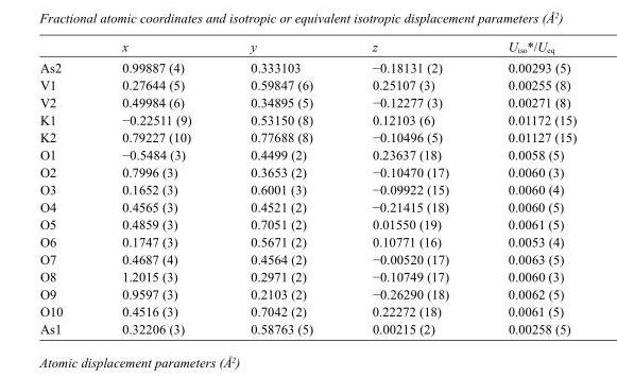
<table><thead><tr><td></td><td>x</td><td>y</td><td>z</td><td>U<sub>iso</sub>*/U<sub>eq</sub></td></tr></thead><tbody><tr><td>As2</td><td>0.99887 (4)</td><td>0.333103</td><td>−0.18131 (2)</td><td>0.00293 (5)</td></tr><tr><td>V1</td><td>0.27644 (5)</td><td>0.59847 (6)</td><td>0.25107 (3)</td><td>0.00255 (8)</td></tr><tr><td>V2</td><td>0.49984 (6)</td><td>0.34895 (5)</td><td>−0.12277 (3)</td><td>0.00271 (8)</td></tr><tr><td>K1</td><td>−0.22511 (9)</td><td>0.53150 (8)</td><td>0.12103 (6)</td><td>0.01172 (15)</td></tr><tr><td>K2</td><td>0.79227 (10)</td><td>0.77688 (8)</td><td>−0.10496 (5)</td><td>0.01127 (15)</td></tr><tr><td>O1</td><td>−0.5484 (3)</td><td>0.4499 (2)</td><td>0.23637 (18)</td><td>0.0058 (5)</td></tr><tr><td>O2</td><td>0.7996 (3)</td><td>0.3653 (2)</td><td>−0.10470 (17)</td><td>0.0060 (3)</td></tr><tr><td>O3</td><td>0.1652 (3)</td><td>0.6001 (3)</td><td>−0.09922 (15)</td><td>0.0060 (4)</td></tr><tr><td>O4</td><td>0.4565 (3)</td><td>0.4521 (2)</td><td>−0.21415 (18)</td><td>0.0060 (5)</td></tr><tr><td>O5</td><td>0.4859 (3)</td><td>0.7051 (2)</td><td>0.01550 (19)</td><td>0.0061 (5)</td></tr><tr><td>O6</td><td>0.1747 (3)</td><td>0.5671 (2)</td><td>0.10771 (16)</td><td>0.0053 (4)</td></tr><tr><td>O7</td><td>0.4687 (4)</td><td>0.4564 (2)</td><td>−0.00520 (17)</td><td>0.0063 (5)</td></tr><tr><td>O8</td><td>1.2015 (3)</td><td>0.2971 (2)</td><td>−0.10749 (17)</td><td>0.0060 (3)</td></tr><tr><td>O9</td><td>0.9597 (3)</td><td>0.2103 (2)</td><td>−0.26290 (18)</td><td>0.0062 (5)</td></tr><tr><td>O10</td><td>0.4516 (3)</td><td>0.7042 (2)</td><td>0.22272 (18)</td><td>0.0061 (5)</td></tr><tr><td>As1</td><td>0.32206 (3)</td><td>0.58763 (5)</td><td>0.00215 (2)</td><td>0.00258 (5)</td></tr></tbody></table>